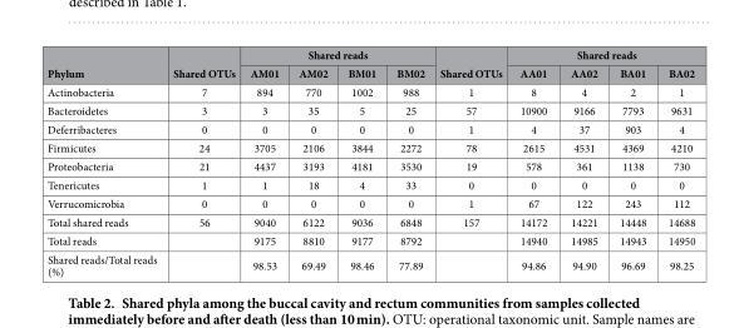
<table><thead><tr><td rowspan="2">Phylum</td><td rowspan="2">Shared OTUs</td><td colspan="4">Shared reads</td><td rowspan="2">Shared OTUs</td><td colspan="4">Shared reads</td></tr><tr><td>AM01</td><td>AM02</td><td>BM01</td><td>BM02</td><td>AA01</td><td>AA02</td><td>BA01</td><td>BA02</td></tr></thead><tbody><tr><td>Actinobacteria</td><td>7</td><td>894</td><td>770</td><td>1002</td><td>988</td><td>1</td><td>8</td><td>4</td><td>2</td><td>1</td></tr><tr><td>Bacteroidetes</td><td>3</td><td>3</td><td>35</td><td>5</td><td>25</td><td>57</td><td>10900</td><td>9166</td><td>7793</td><td>9631</td></tr><tr><td>Deferribacteres</td><td>0</td><td>0</td><td>0</td><td>0</td><td>0</td><td>1</td><td>4</td><td>37</td><td>903</td><td>4</td></tr><tr><td>Firmicutes</td><td>24</td><td>3705</td><td>2106</td><td>3844</td><td>2272</td><td>78</td><td>2615</td><td>4531</td><td>4369</td><td>4210</td></tr><tr><td>Proteobacteria</td><td>21</td><td>4437</td><td>3193</td><td>4181</td><td>3530</td><td>19</td><td>578</td><td>361</td><td>1138</td><td>730</td></tr><tr><td>Tenericutes</td><td>1</td><td>1</td><td>18</td><td>4</td><td>33</td><td>0</td><td>0</td><td>0</td><td>0</td><td>0</td></tr><tr><td>Verrucomicrobia</td><td>0</td><td>0</td><td>0</td><td>0</td><td>0</td><td>1</td><td>67</td><td>122</td><td>243</td><td>112</td></tr><tr><td>Total shared reads</td><td>56</td><td>9040</td><td>6122</td><td>9036</td><td>6848</td><td>157</td><td>14172</td><td>14221</td><td>14448</td><td>14688</td></tr><tr><td>Total reads</td><td></td><td>9175</td><td>8810</td><td>9177</td><td>8792</td><td></td><td>14940</td><td>14985</td><td>14943</td><td>14950</td></tr><tr><td>Shared reads/Total reads (%)</td><td></td><td>98.53</td><td>69.49</td><td>98.46</td><td>77.89</td><td></td><td>94.86</td><td>94.90</td><td>96.69</td><td>98.25</td></tr></tbody></table>